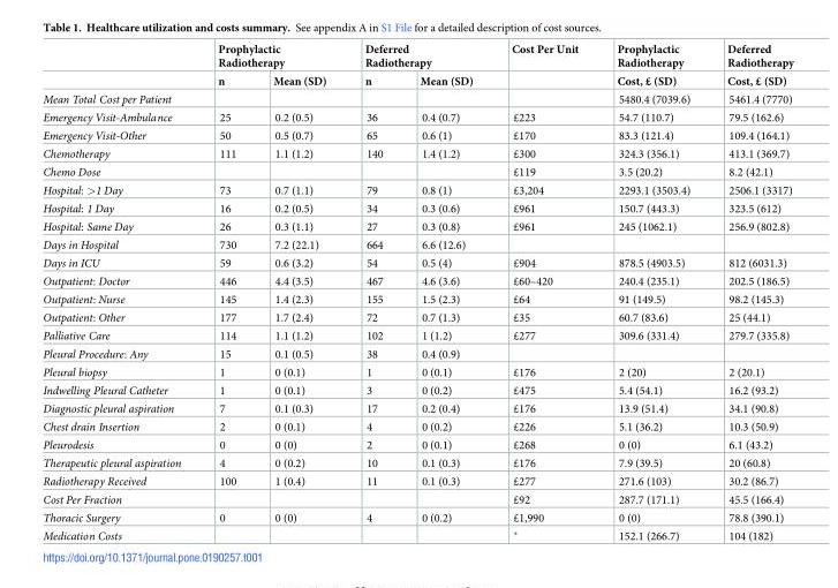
<table><thead><tr><td rowspan="2"></td><td colspan="2">Prophylactic Radiotherapy</td><td colspan="2">Deferred Radiotherapy</td><td rowspan="2">Cost Per Unit</td><td rowspan="2">Prophylactic Radiotherapy Cost, £ (SD)</td><td rowspan="2">Deferred Radiotherapy Cost, £ (SD)</td></tr><tr><td>n</td><td>Mean (SD)</td><td>n</td><td>Mean (SD)</td></tr></thead><tbody><tr><td>Mean Total Cost per Patient</td><td></td><td></td><td></td><td></td><td></td><td>5480.4 (7039.6)</td><td>5461.4 (7770)</td></tr><tr><td>Emergency Visit-Ambulance</td><td>25</td><td>0.2 (0.5)</td><td>36</td><td>0.4 (0.7)</td><td>£223</td><td>54.7 (110.7)</td><td>79.5 (162.6)</td></tr><tr><td>Emergency Visit-Other</td><td>50</td><td>0.5 (0.7)</td><td>65</td><td>0.6 (1)</td><td>£170</td><td>83.3 (121.4)</td><td>109.4 (164.1)</td></tr><tr><td>Chemotherapy</td><td>111</td><td>1.1 (1.2)</td><td>140</td><td>1.4 (1.2)</td><td>£300</td><td>324.3 (356.1)</td><td>413.1 (369.7)</td></tr><tr><td>Chemo Dose</td><td></td><td></td><td></td><td></td><td>£119</td><td>3.5 (20.2)</td><td>8.2 (42.1)</td></tr><tr><td>Hospital: &gt;1 Day</td><td>73</td><td>0.7 (1.1)</td><td>79</td><td>0.8 (1)</td><td>£3,204</td><td>2293.1 (3503.4)</td><td>2506.1 (3317)</td></tr><tr><td>Hospital: 1 Day</td><td>16</td><td>0.2 (0.5)</td><td>34</td><td>0.3 (0.6)</td><td>£961</td><td>150.7 (443.3)</td><td>323.5 (612)</td></tr><tr><td>Hospital: Same Day</td><td>26</td><td>0.3 (1.1)</td><td>27</td><td>0.3 (0.8)</td><td>£961</td><td>245 (1062.1)</td><td>256.9 (802.8)</td></tr><tr><td>Days in Hospital</td><td>730</td><td>7.2 (22.1)</td><td>664</td><td>6.6 (12.6)</td><td></td><td></td><td></td></tr><tr><td>Days in ICU</td><td>59</td><td>0.6 (3.2)</td><td>54</td><td>0.5 (4)</td><td>£904</td><td>878.5 (4903.5)</td><td>812 (6031.3)</td></tr><tr><td>Outpatient: Doctor</td><td>446</td><td>4.4 (3.5)</td><td>467</td><td>4.6 (3.6)</td><td>£60–420</td><td>240.4 (235.1)</td><td>202.5 (186.5)</td></tr><tr><td>Outpatient: Nurse</td><td>145</td><td>1.4 (2.3)</td><td>155</td><td>1.5 (2.3)</td><td>£64</td><td>91 (149.5)</td><td>98.2 (145.3)</td></tr><tr><td>Outpatient: Other</td><td>177</td><td>1.7 (2.4)</td><td>72</td><td>0.7 (1.3)</td><td>£35</td><td>60.7 (83.6)</td><td>25 (44.1)</td></tr><tr><td>Palliative Care</td><td>114</td><td>1.1 (1.2)</td><td>102</td><td>1 (1.2)</td><td>£277</td><td>309.6 (331.4)</td><td>279.7 (335.8)</td></tr><tr><td>Pleural Procedure: Any</td><td>15</td><td>0.1 (0.5)</td><td>38</td><td>0.4 (0.9)</td><td></td><td></td><td></td></tr><tr><td>Pleural biopsy</td><td>1</td><td>0 (0.1)</td><td>1</td><td>0 (0.1)</td><td>£176</td><td>2 (20)</td><td>2 (20.1)</td></tr><tr><td>Indwelling Pleural Catheter</td><td>1</td><td>0 (0.1)</td><td>3</td><td>0 (0.2)</td><td>£475</td><td>5.4 (54.1)</td><td>16.2 (93.2)</td></tr><tr><td>Diagnostic pleural aspiration</td><td>7</td><td>0.1 (0.3)</td><td>17</td><td>0.2 (0.4)</td><td>£176</td><td>13.9 (51.4)</td><td>34.1 (90.8)</td></tr><tr><td>Chest drain Insertion</td><td>2</td><td>0 (0.1)</td><td>4</td><td>0 (0.2)</td><td>£226</td><td>5.1 (36.2)</td><td>10.3 (50.9)</td></tr><tr><td>Pleurodesis</td><td>0</td><td>0 (0)</td><td>2</td><td>0 (0.1)</td><td>£268</td><td>0 (0)</td><td>6.1 (43.2)</td></tr><tr><td>Therapeutic pleural aspiration</td><td>4</td><td>0 (0.2)</td><td>10</td><td>0.1 (0.3)</td><td>£176</td><td>7.9 (39.5)</td><td>20 (60.8)</td></tr><tr><td>Radiotherapy Received</td><td>100</td><td>1 (0.4)</td><td>11</td><td>0.1 (0.3)</td><td>£277</td><td>271.6 (103)</td><td>30.2 (86.7)</td></tr><tr><td>Cost Per Fraction</td><td></td><td></td><td></td><td></td><td>£92</td><td>287.7 (171.1)</td><td>45.5 (166.4)</td></tr><tr><td>Thoracic Surgery</td><td>0</td><td>0 (0)</td><td>4</td><td>0 (0.2)</td><td>£1,990</td><td>0 (0)</td><td>78.8 (390.1)</td></tr><tr><td>Medication Costs</td><td></td><td></td><td></td><td></td><td>*</td><td>152.1 (266.7)</td><td>104 (182)</td></tr></tbody></table>